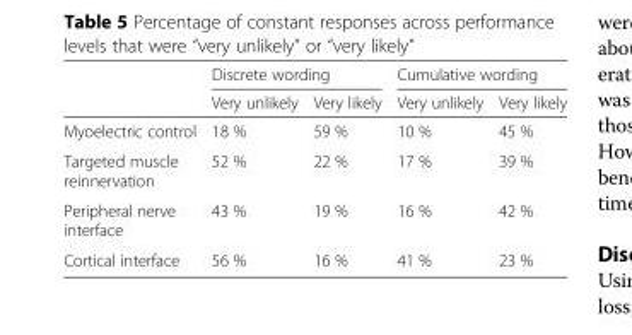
<table><thead><tr><td rowspan="2"></td><td colspan="2">Discrete wording</td><td colspan="2">Cumulative wording</td></tr><tr><td>Very unlikely</td><td>Very likely</td><td>Very unlikely</td><td>Very likely</td></tr></thead><tbody><tr><td>Myoelectric control</td><td>18 %</td><td>59 %</td><td>10 %</td><td>45 %</td></tr><tr><td>Targeted muscle reinnervation</td><td>52 %</td><td>22 %</td><td>17 %</td><td>39 %</td></tr><tr><td>Peripheral nerve interface</td><td>43 %</td><td>19 %</td><td>16 %</td><td>42 %</td></tr><tr><td>Cortical interface</td><td>56 %</td><td>16 %</td><td>41 %</td><td>23 %</td></tr></tbody></table>